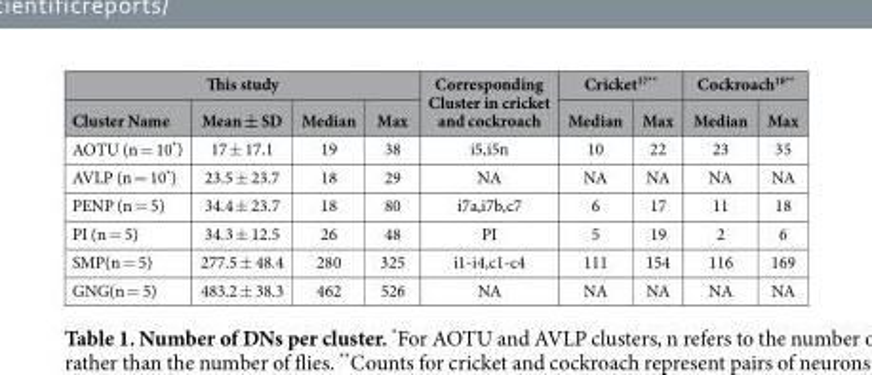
<table><thead><tr><td colspan="4">This study</td><td rowspan="2">Corresponding Cluster in cricket and cockroach</td><td colspan="2">Cricket<sup>17</sup>**</td><td colspan="2">Cockroach<sup>18</sup>**</td></tr><tr><td>Cluster Name</td><td>Mean ± SD</td><td>Median</td><td>Max</td><td>Median</td><td>Max</td><td>Median</td><td>Max</td></tr></thead><tbody><tr><td>AOTU (n = 10*)</td><td>17 ± 17.1</td><td>19</td><td>38</td><td>i5,i5n</td><td>10</td><td>22</td><td>23</td><td>35</td></tr><tr><td>AVLP (n = 10*)</td><td>23.5 ± 23.7</td><td>18</td><td>29</td><td>NA</td><td>NA</td><td>NA</td><td>NA</td><td>NA</td></tr><tr><td>PENP (n = 5)</td><td>34.4 ± 23.7</td><td>18</td><td>80</td><td>i7a,i7b,c7</td><td>6</td><td>17</td><td>11</td><td>18</td></tr><tr><td>PI (n = 5)</td><td>34.3 ± 12.5</td><td>26</td><td>48</td><td>PI</td><td>5</td><td>19</td><td>2</td><td>6</td></tr><tr><td>SMP(n = 5)</td><td>277.5 ± 48.4</td><td>280</td><td>325</td><td>i1-i4,c1-c4</td><td>111</td><td>154</td><td>116</td><td>169</td></tr><tr><td>GNG(n = 5)</td><td>483.2 ± 38.3</td><td>462</td><td>526</td><td>NA</td><td>NA</td><td>NA</td><td>NA</td><td>NA</td></tr></tbody></table>